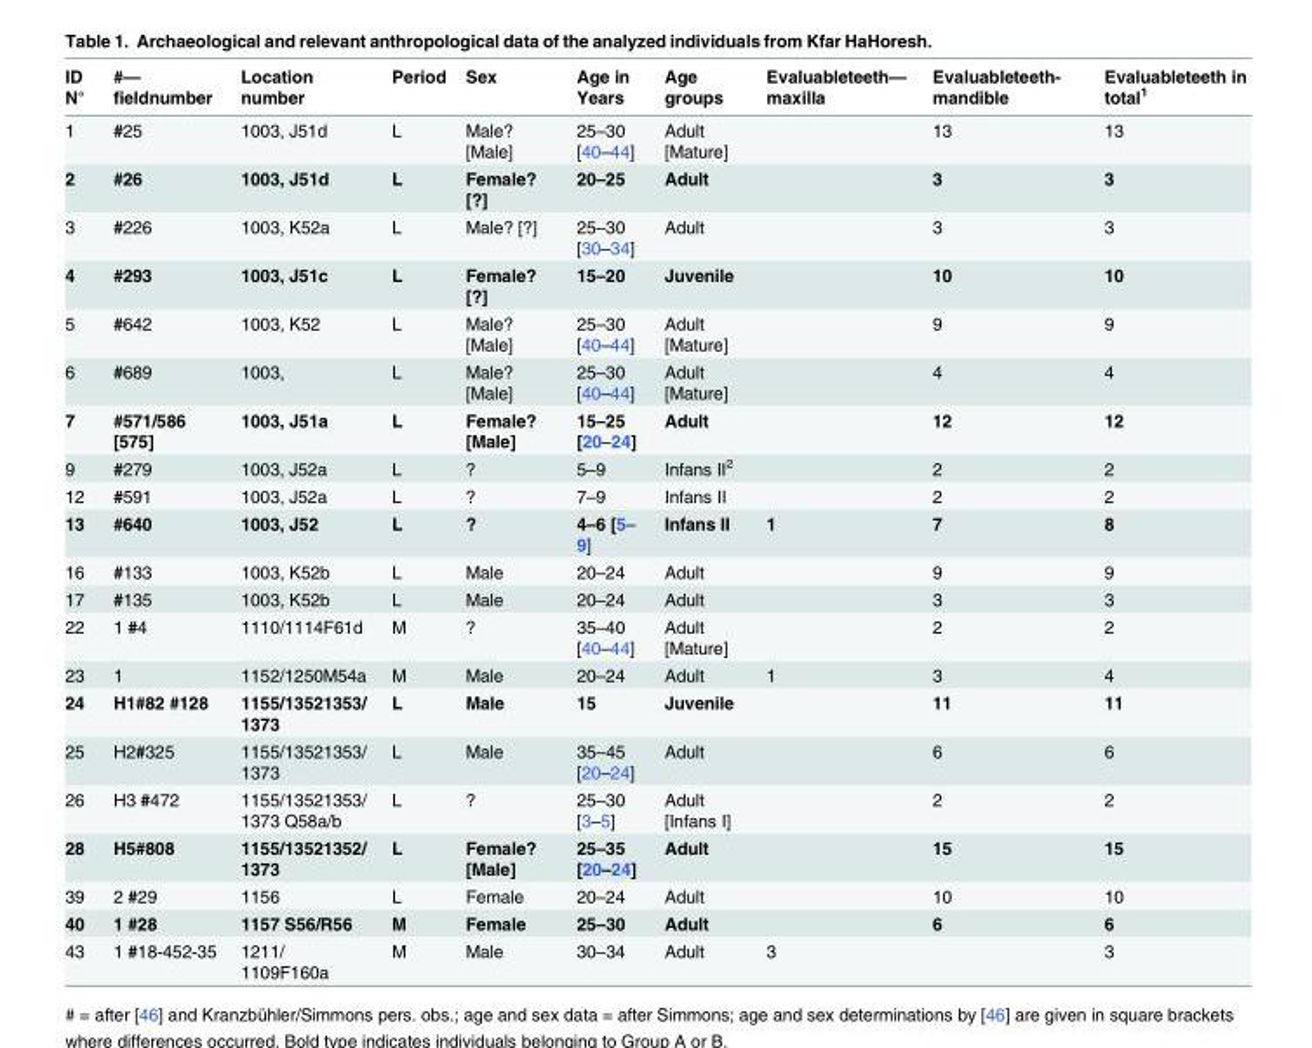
<table><thead><tr><td>ID N°</td><td>#— fieldnumber</td><td>Location number</td><td>Period</td><td>Sex</td><td>Age in Years</td><td>Age groups</td><td>Evaluableteeth— maxilla</td><td>Evaluableteeth- mandible</td><td>Evaluableteeth in total<sup>1</sup></td></tr></thead><tbody><tr><td>1</td><td>#25</td><td>1003, J51d</td><td>L</td><td>Male? [Male]</td><td>25–30 [40–44]</td><td>Adult [Mature]</td><td></td><td>13</td><td>13</td></tr><tr><td>2</td><td>#26</td><td>1003, J51d</td><td>L</td><td>Female? [?]</td><td>20–25</td><td>Adult</td><td></td><td>3</td><td>3</td></tr><tr><td>3</td><td>#226</td><td>1003, K52a</td><td>L</td><td>Male? [?]</td><td>25–30 [30–34]</td><td>Adult</td><td></td><td>3</td><td>3</td></tr><tr><td>4</td><td>#293</td><td>1003, J51c</td><td>L</td><td>Female? [?]</td><td>15–20</td><td>Juvenile</td><td></td><td>10</td><td>10</td></tr><tr><td>5</td><td>#642</td><td>1003, K52</td><td>L</td><td>Male? [Male]</td><td>25–30 [40–44]</td><td>Adult [Mature]</td><td></td><td>9</td><td>9</td></tr><tr><td>6</td><td>#689</td><td>1003,</td><td>L</td><td>Male? [Male]</td><td>25–30 [40–44]</td><td>Adult [Mature]</td><td></td><td>4</td><td>4</td></tr><tr><td>7</td><td>#571/586 [575]</td><td>1003, J51a</td><td>L</td><td>Female? [Male]</td><td>15–25 [20–24]</td><td>Adult</td><td></td><td>12</td><td>12</td></tr><tr><td>9</td><td>#279</td><td>1003, J52a</td><td>L</td><td>?</td><td>5–9</td><td>Infans II<sup>2</sup></td><td></td><td>2</td><td>2</td></tr><tr><td>12</td><td>#591</td><td>1003, J52a</td><td>L</td><td>?</td><td>7–9</td><td>Infans II</td><td></td><td>2</td><td>2</td></tr><tr><td>13</td><td>#640</td><td>1003, J52</td><td>L</td><td>?</td><td>4–6 [5– 9]</td><td>Infans II</td><td>1</td><td>7</td><td>8</td></tr><tr><td>16</td><td>#133</td><td>1003, K52b</td><td>L</td><td>Male</td><td>20–24</td><td>Adult</td><td></td><td>9</td><td>9</td></tr><tr><td>17</td><td>#135</td><td>1003, K52b</td><td>L</td><td>Male</td><td>20–24</td><td>Adult</td><td></td><td>3</td><td>3</td></tr><tr><td>22</td><td>1 #4</td><td>1110/1114F61d</td><td>M</td><td>?</td><td>35–40 [40–44]</td><td>Adult [Mature]</td><td></td><td>2</td><td>2</td></tr><tr><td>23</td><td>1</td><td>1152/1250M54a</td><td>M</td><td>Male</td><td>20–24</td><td>Adult</td><td>1</td><td>3</td><td>4</td></tr><tr><td>24</td><td>H1#82 #128</td><td>1155/13521353/ 1373</td><td>L</td><td>Male</td><td>15</td><td>Juvenile</td><td></td><td>11</td><td>11</td></tr><tr><td>25</td><td>H2#325</td><td>1155/13521353/ 1373</td><td>L</td><td>Male</td><td>35–45 [20–24]</td><td>Adult</td><td></td><td>6</td><td>6</td></tr><tr><td>26</td><td>H3 #472</td><td>1155/13521353/ 1373 Q58a/b</td><td>L</td><td>?</td><td>25–30 [3–5]</td><td>Adult [Infans I]</td><td></td><td>2</td><td>2</td></tr><tr><td>28</td><td>H5#808</td><td>1155/13521352/ 1373</td><td>L</td><td>Female? [Male]</td><td>25–35 [20–24]</td><td>Adult</td><td></td><td>15</td><td>15</td></tr><tr><td>39</td><td>2 #29</td><td>1156</td><td>L</td><td>Female</td><td>20–24</td><td>Adult</td><td></td><td>10</td><td>10</td></tr><tr><td>40</td><td>1 #28</td><td>1157 S56/R56</td><td>M</td><td>Female</td><td>25–30</td><td>Adult</td><td></td><td>6</td><td>6</td></tr><tr><td>43</td><td>1 #18-452-35</td><td>1211/ 1109F160a</td><td>M</td><td>Male</td><td>30–34</td><td>Adult</td><td>3</td><td></td><td>3</td></tr></tbody></table>